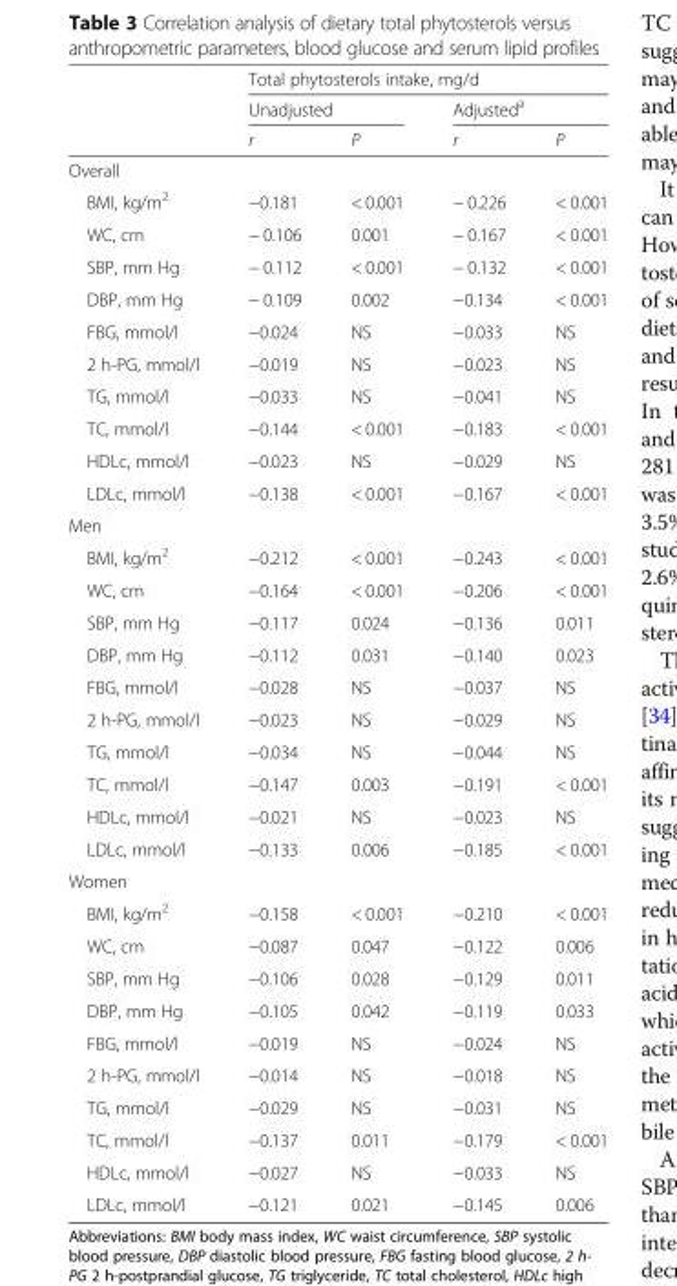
<table><thead><tr><td rowspan="3"></td><td colspan="4">Total phytosterols intake, mg/d</td></tr><tr><td colspan="2">Unadjusted</td><td colspan="2">Adjusted<sup>a</sup></td></tr><tr><td>r</td><td>P</td><td>r</td><td>P</td></tr></thead><tbody><tr><td colspan="5">Overall</td></tr><tr><td>BMI, kg/m<sup>2</sup></td><td>−0.181</td><td>&lt; 0.001</td><td>− 0.226</td><td>&lt; 0.001</td></tr><tr><td>WC, cm</td><td>− 0.106</td><td>0.001</td><td>− 0.167</td><td>&lt; 0.001</td></tr><tr><td>SBP, mm Hg</td><td>− 0.112</td><td>&lt; 0.001</td><td>− 0.132</td><td>&lt; 0.001</td></tr><tr><td>DBP, mm Hg</td><td>− 0.109</td><td>0.002</td><td>−0.134</td><td>&lt; 0.001</td></tr><tr><td>FBG, mmol/l</td><td>−0.024</td><td>NS</td><td>−0.033</td><td>NS</td></tr><tr><td>2 h-PG, mmol/l</td><td>−0.019</td><td>NS</td><td>−0.023</td><td>NS</td></tr><tr><td>TG, mmol/l</td><td>−0.033</td><td>NS</td><td>−0.041</td><td>NS</td></tr><tr><td>TC, mmol/l</td><td>−0.144</td><td>&lt; 0.001</td><td>−0.183</td><td>&lt; 0.001</td></tr><tr><td>HDLc, mmol/l</td><td>−0.023</td><td>NS</td><td>−0.029</td><td>NS</td></tr><tr><td>LDLc, mmol/l</td><td>−0.138</td><td>&lt; 0.001</td><td>−0.167</td><td>&lt; 0.001</td></tr><tr><td colspan="5">Men</td></tr><tr><td>BMI, kg/m<sup>2</sup></td><td>−0.212</td><td>&lt; 0.001</td><td>−0.243</td><td>&lt; 0.001</td></tr><tr><td>WC, cm</td><td>−0.164</td><td>&lt; 0.001</td><td>−0.206</td><td>&lt; 0.001</td></tr><tr><td>SBP, mm Hg</td><td>−0.117</td><td>0.024</td><td>−0.136</td><td>0.011</td></tr><tr><td>DBP, mm Hg</td><td>−0.112</td><td>0.031</td><td>−0.140</td><td>0.023</td></tr><tr><td>FBG, mmol/l</td><td>−0.028</td><td>NS</td><td>−0.037</td><td>NS</td></tr><tr><td>2 h-PG, mmol/l</td><td>−0.023</td><td>NS</td><td>−0.029</td><td>NS</td></tr><tr><td>TG, mmol/l</td><td>−0.034</td><td>NS</td><td>−0.044</td><td>NS</td></tr><tr><td>TC, mmol/l</td><td>−0.147</td><td>0.003</td><td>−0.191</td><td>&lt; 0.001</td></tr><tr><td>HDLc, mmol/l</td><td>−0.021</td><td>NS</td><td>−0.023</td><td>NS</td></tr><tr><td>LDLc, mmol/l</td><td>−0.133</td><td>0.006</td><td>−0.185</td><td>&lt; 0.001</td></tr><tr><td colspan="5">Women</td></tr><tr><td>BMI, kg/m<sup>2</sup></td><td>−0.158</td><td>&lt; 0.001</td><td>−0.210</td><td>&lt; 0.001</td></tr><tr><td>WC, cm</td><td>−0.087</td><td>0.047</td><td>−0.122</td><td>0.006</td></tr><tr><td>SBP, mm Hg</td><td>−0.106</td><td>0.028</td><td>−0.129</td><td>0.011</td></tr><tr><td>DBP, mm Hg</td><td>−0.105</td><td>0.042</td><td>−0.119</td><td>0.033</td></tr><tr><td>FBG, mmol/l</td><td>−0.019</td><td>NS</td><td>−0.024</td><td>NS</td></tr><tr><td>2 h-PG, mmol/l</td><td>−0.014</td><td>NS</td><td>−0.018</td><td>NS</td></tr><tr><td>TG, mmol/l</td><td>−0.029</td><td>NS</td><td>−0.031</td><td>NS</td></tr><tr><td>TC, mmol/l</td><td>−0.137</td><td>0.011</td><td>−0.179</td><td>&lt; 0.001</td></tr><tr><td>HDLc, mmol/l</td><td>−0.027</td><td>NS</td><td>−0.033</td><td>NS</td></tr><tr><td>LDLc, mmol/l</td><td>−0.121</td><td>0.021</td><td>−0.145</td><td>0.006</td></tr></tbody></table>